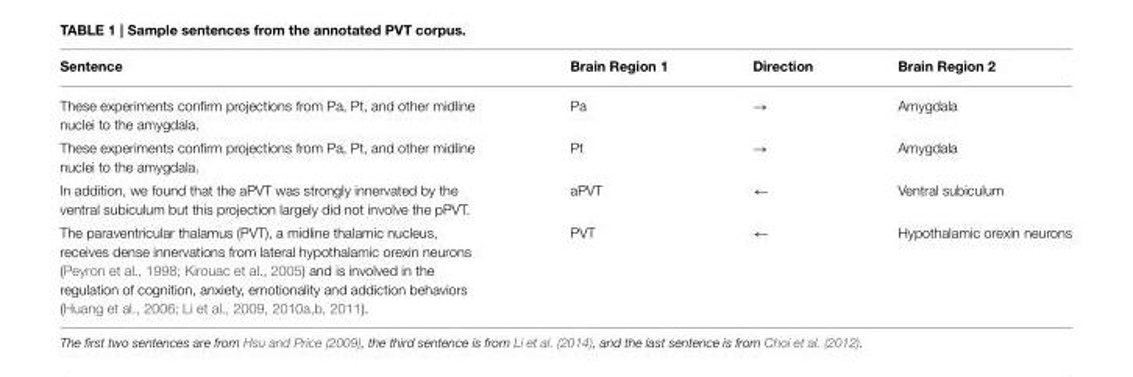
<table><thead><tr><td>Sentence</td><td>Brain Region 1</td><td>Direction</td><td>Brain Region 2</td></tr></thead><tbody><tr><td>These experiments confirm projections from Pa, Pt, and other midline nuclei to the amygdala.</td><td>Pa</td><td>→</td><td>Amygdala</td></tr><tr><td>These experiments confirm projections from Pa, Pt, and other midline nuclei to the amygdala.</td><td>Pt</td><td>→</td><td>Amygdala</td></tr><tr><td>In addition, we found that the aPVT was strongly innervated by the ventral subiculum but this projection largely did not involve the pPVT.</td><td>aPVT</td><td>←</td><td>Ventral subiculum</td></tr><tr><td>The paraventricular thalamus (PVT), a midline thalamic nucleus, receives dense innervations from lateral hypothalamic orexin neurons (Peyron et al., 1998; Kirouac et al., 2005) and is involved in the regulation of cognition, anxiety, emotionality and addiction behaviors (Huang et al., 2006; Li et al., 2009, 2010a,b, 2011).</td><td>PVT</td><td>←</td><td>Hypothalamic orexin neurons</td></tr></tbody></table>